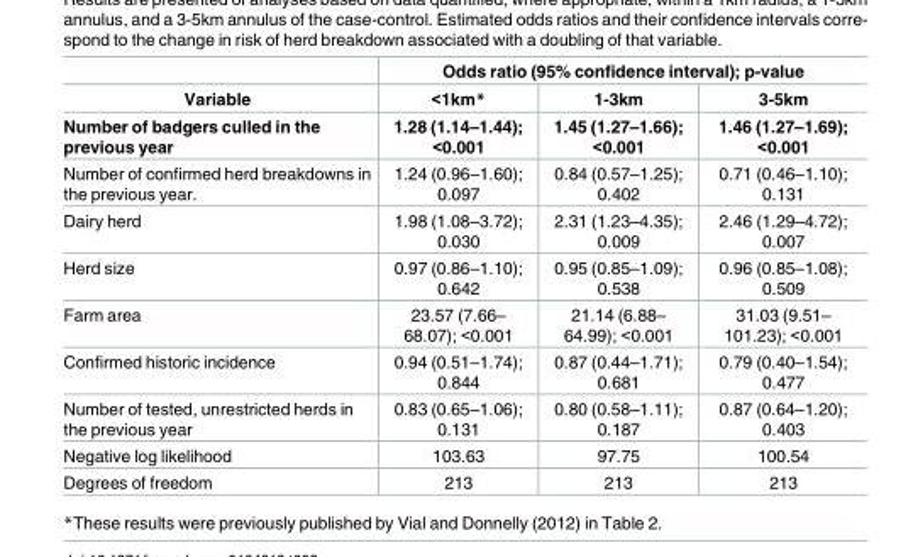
<table><thead><tr><td rowspan="2">Variable</td><td colspan="3">Odds ratio (95% confidence interval); p-value</td></tr><tr><td>&lt;1km*</td><td>1-3km</td><td>3-5km</td></tr></thead><tbody><tr><td>Number of badgers culled in the previous year</td><td>1.28 (1.14–1.44); &lt;0.001</td><td>1.45 (1.27–1.66); &lt;0.001</td><td>1.46 (1.27–1.69); &lt;0.001</td></tr><tr><td>Number of confirmed herd breakdowns in the previous year.</td><td>1.24 (0.96–1.60); 0.097</td><td>0.84 (0.57–1.25); 0.402</td><td>0.71 (0.46–1.10); 0.131</td></tr><tr><td>Dairy herd</td><td>1.98 (1.08–3.72); 0.030</td><td>2.31 (1.23–4.35); 0.009</td><td>2.46 (1.29–4.72); 0.007</td></tr><tr><td>Herd size</td><td>0.97 (0.86–1.10); 0.642</td><td>0.95 (0.85–1.09); 0.538</td><td>0.96 (0.85–1.08); 0.509</td></tr><tr><td>Farm area</td><td>23.57 (7.66– 68.07); &lt;0.001</td><td>21.14 (6.88– 64.99); &lt;0.001</td><td>31.03 (9.51– 101.23); &lt;0.001</td></tr><tr><td>Confirmed historic incidence</td><td>0.94 (0.51–1.74); 0.844</td><td>0.87 (0.44–1.71); 0.681</td><td>0.79 (0.40–1.54); 0.477</td></tr><tr><td>Number of tested, unrestricted herds in the previous year</td><td>0.83 (0.65–1.06); 0.131</td><td>0.80 (0.58–1.11); 0.187</td><td>0.87 (0.64–1.20); 0.403</td></tr><tr><td>Negative log likelihood</td><td>103.63</td><td>97.75</td><td>100.54</td></tr><tr><td>Degrees of freedom</td><td>213</td><td>213</td><td>213</td></tr></tbody></table>